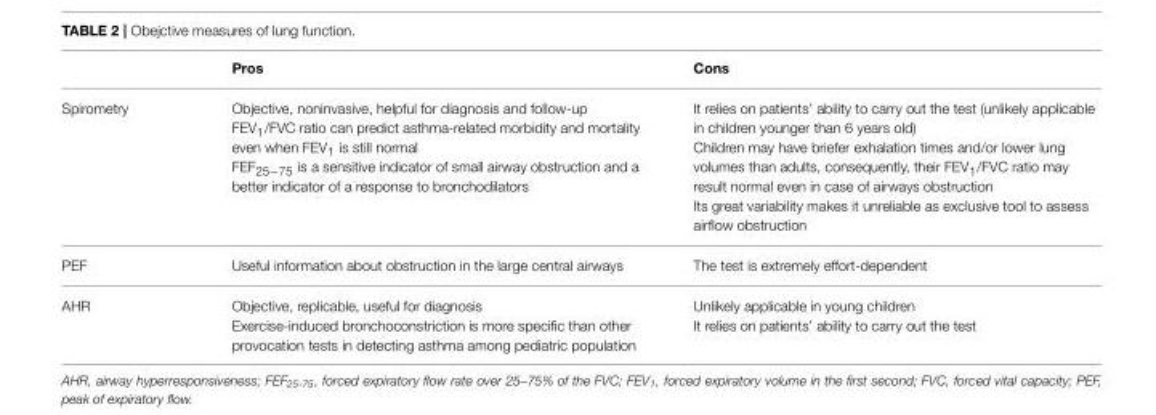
<table><thead><tr><td></td><td>Pros</td><td>Cons</td></tr></thead><tbody><tr><td>Spirometry</td><td>Objective, noninvasive, helpful for diagnosis and follow-up FEV<sub>1</sub>/FVC ratio can predict asthma-related morbidity and mortality even when FEV<sub>1</sub> is still normal FEF<sub>25−75</sub> is a sensitive indicator of small airway obstruction and a better indicator of a response to bronchodilators</td><td>It relies on patients’ ability to carry out the test (unlikely applicable in children younger than 6 years old) Children may have briefer exhalation times and/or lower lung volumes than adults, consequently, their FEV<sub>1</sub>/FVC ratio may result normal even in case of airways obstruction Its great variability makes it unreliable as exclusive tool to assess airflow obstruction</td></tr><tr><td>PEF</td><td>Useful information about obstruction in the large central airways</td><td>The test is extremely effort-dependent</td></tr><tr><td>AHR</td><td>Objective, replicable, useful for diagnosis Exercise-induced bronchoconstriction is more specific than other provocation tests in detecting asthma among pediatric population</td><td>Unlikely applicable in young children It relies on patients’ ability to carry out the test</td></tr></tbody></table>